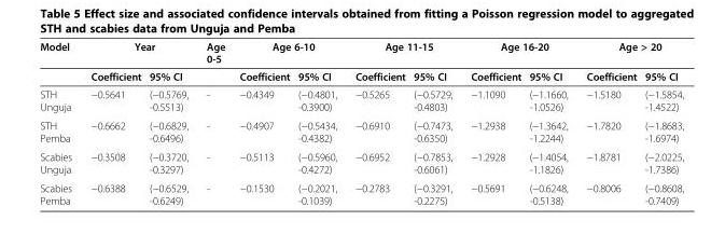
<table><thead><tr><td rowspan="2">Model</td><td colspan="2">Year</td><td rowspan="2">Age 0-5</td><td colspan="2">Age 6-10</td><td colspan="2">Age 11-15</td><td colspan="2">Age 16-20</td><td colspan="2">Age &gt; 20</td></tr><tr><td>Coefficient</td><td>95% CI</td><td>Coefficient</td><td>95% CI</td><td>Coefficient</td><td>95% CI</td><td>Coefficient</td><td>95% CI</td><td>Coefficient</td><td>95% CI</td></tr></thead><tbody><tr><td>STH Unguja</td><td>−0.5641</td><td>(−0.5769, -0.5513)</td><td>-</td><td>−0.4349</td><td>(−0.4801, -0.3900)</td><td>−0.5265</td><td>(−0.5729, -0.4803)</td><td>−1.1090</td><td>(−1.1660, -1.0526)</td><td>−1.5180</td><td>(−1.5854, -1.4522)</td></tr><tr><td>STH Pemba</td><td>−0.6662</td><td>(−0.6829, -0.6496)</td><td>-</td><td>−0.4907</td><td>(−0.5434, -0.4382)</td><td>−0.6910</td><td>(−0.7473, -0.6350)</td><td>−1.2938</td><td>(−1.3642, -1.2244)</td><td>−1.7820</td><td>(−1.8683, -1.6974)</td></tr><tr><td>Scabies Unguja</td><td>−0.3508</td><td>(−0.3720, -0.3297)</td><td>-</td><td>−0.5113</td><td>(−0.5960, -0.4272)</td><td>−0.6952</td><td>(−0.7853, -0.6061)</td><td>−1.2928</td><td>(−1.4054, -1.1826)</td><td>−1.8781</td><td>(−2.0225, -1.7386)</td></tr><tr><td>Scabies Pemba</td><td>−0.6388</td><td>(−0.6529, -0.6249)</td><td>-</td><td>−0.1530</td><td>(−0.2021, -0.1039)</td><td>−0.2783</td><td>(−0.3291, -0.2275)</td><td>−0.5691</td><td>(−0.6248, -0.5138)</td><td>−0.8006</td><td>(−0.8608, -0.7409)</td></tr></tbody></table>